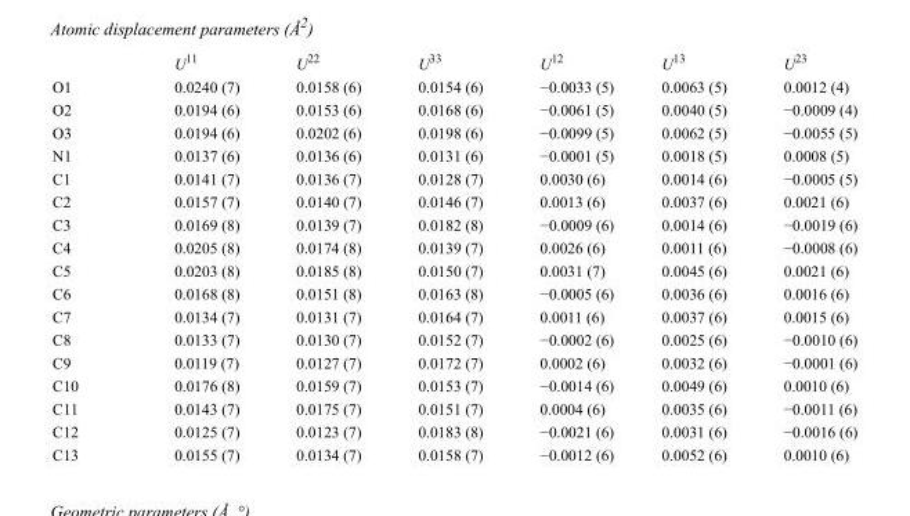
<table><thead><tr><td></td><td>U<sup>11</sup></td><td>U<sup>22</sup></td><td>U<sup>33</sup></td><td>U<sup>12</sup></td><td>U<sup>13</sup></td><td>U<sup>23</sup></td></tr></thead><tbody><tr><td>O1</td><td>0.0240 (7)</td><td>0.0158 (6)</td><td>0.0154 (6)</td><td>−0.0033 (5)</td><td>0.0063 (5)</td><td>0.0012 (4)</td></tr><tr><td>O2</td><td>0.0194 (6)</td><td>0.0153 (6)</td><td>0.0168 (6)</td><td>−0.0061 (5)</td><td>0.0040 (5)</td><td>−0.0009 (4)</td></tr><tr><td>O3</td><td>0.0194 (6)</td><td>0.0202 (6)</td><td>0.0198 (6)</td><td>−0.0099 (5)</td><td>0.0062 (5)</td><td>−0.0055 (5)</td></tr><tr><td>N1</td><td>0.0137 (6)</td><td>0.0136 (6)</td><td>0.0131 (6)</td><td>−0.0001 (5)</td><td>0.0018 (5)</td><td>0.0008 (5)</td></tr><tr><td>C1</td><td>0.0141 (7)</td><td>0.0136 (7)</td><td>0.0128 (7)</td><td>0.0030 (6)</td><td>0.0014 (6)</td><td>−0.0005 (5)</td></tr><tr><td>C2</td><td>0.0157 (7)</td><td>0.0140 (7)</td><td>0.0146 (7)</td><td>0.0013 (6)</td><td>0.0037 (6)</td><td>0.0021 (6)</td></tr><tr><td>C3</td><td>0.0169 (8)</td><td>0.0139 (7)</td><td>0.0182 (8)</td><td>−0.0009 (6)</td><td>0.0014 (6)</td><td>−0.0019 (6)</td></tr><tr><td>C4</td><td>0.0205 (8)</td><td>0.0174 (8)</td><td>0.0139 (7)</td><td>0.0026 (6)</td><td>0.0011 (6)</td><td>−0.0008 (6)</td></tr><tr><td>C5</td><td>0.0203 (8)</td><td>0.0185 (8)</td><td>0.0150 (7)</td><td>0.0031 (7)</td><td>0.0045 (6)</td><td>0.0021 (6)</td></tr><tr><td>C6</td><td>0.0168 (8)</td><td>0.0151 (8)</td><td>0.0163 (8)</td><td>−0.0005 (6)</td><td>0.0036 (6)</td><td>0.0016 (6)</td></tr><tr><td>C7</td><td>0.0134 (7)</td><td>0.0131 (7)</td><td>0.0164 (7)</td><td>0.0011 (6)</td><td>0.0037 (6)</td><td>0.0015 (6)</td></tr><tr><td>C8</td><td>0.0133 (7)</td><td>0.0130 (7)</td><td>0.0152 (7)</td><td>−0.0002 (6)</td><td>0.0025 (6)</td><td>−0.0010 (6)</td></tr><tr><td>C9</td><td>0.0119 (7)</td><td>0.0127 (7)</td><td>0.0172 (7)</td><td>0.0002 (6)</td><td>0.0032 (6)</td><td>−0.0001 (6)</td></tr><tr><td>C10</td><td>0.0176 (8)</td><td>0.0159 (7)</td><td>0.0153 (7)</td><td>−0.0014 (6)</td><td>0.0049 (6)</td><td>0.0010 (6)</td></tr><tr><td>C11</td><td>0.0143 (7)</td><td>0.0175 (7)</td><td>0.0151 (7)</td><td>0.0004 (6)</td><td>0.0035 (6)</td><td>−0.0011 (6)</td></tr><tr><td>C12</td><td>0.0125 (7)</td><td>0.0123 (7)</td><td>0.0183 (8)</td><td>−0.0021 (6)</td><td>0.0031 (6)</td><td>−0.0016 (6)</td></tr><tr><td>C13</td><td>0.0155 (7)</td><td>0.0134 (7)</td><td>0.0158 (7)</td><td>−0.0012 (6)</td><td>0.0052 (6)</td><td>0.0010 (6)</td></tr></tbody></table>